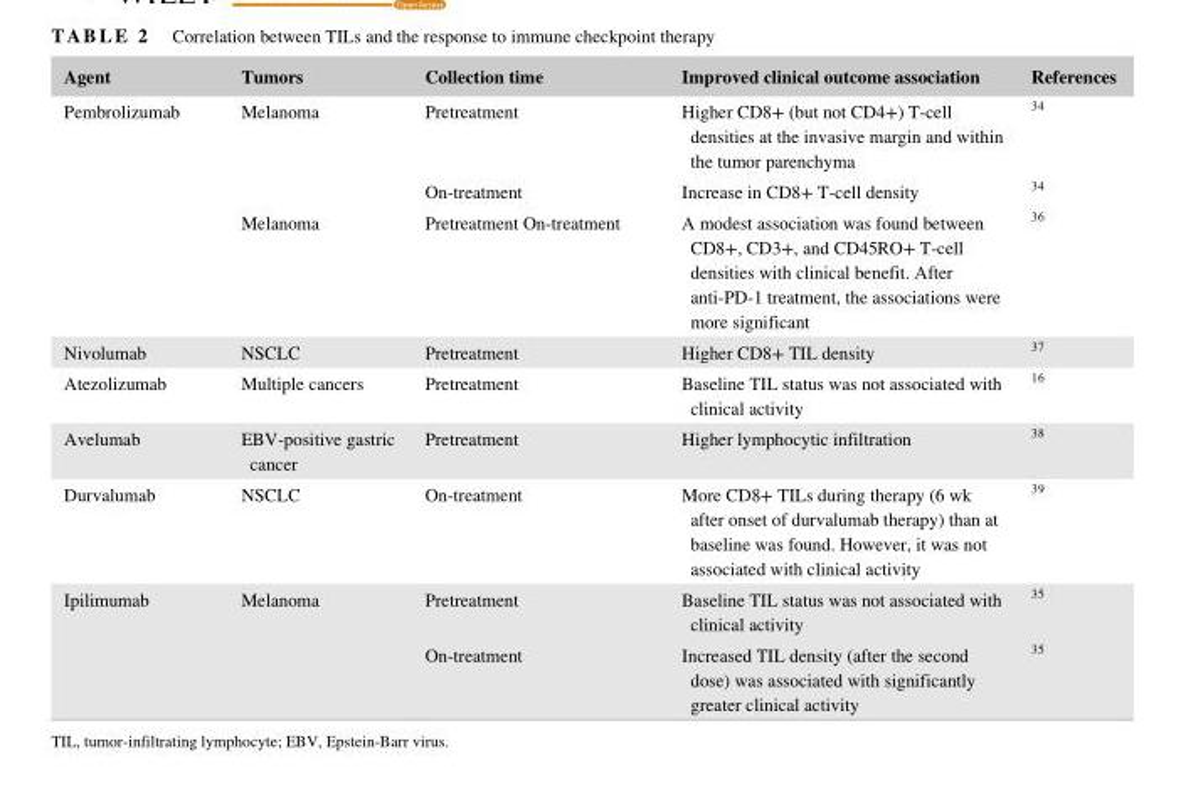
<table><thead><tr><td>Agent</td><td>Tumors</td><td>Collection time</td><td>Improved clinical outcome association</td><td>References</td></tr></thead><tbody><tr><td rowspan="3">Pembrolizumab</td><td rowspan="2">Melanoma</td><td>Pretreatment</td><td>Higher CD8+ (but not CD4+) T- cell densities at the invasive margin and within the tumor parenchyma</td><td>34</td></tr><tr><td>On- treatment</td><td>Increase in CD8+ T- cell density</td><td>34</td></tr><tr><td>Melanoma</td><td>Pretreatment On- treatment</td><td>A modest association was found between CD8+, CD3+, and CD45RO+ T- cell densities with clinical benefit. After anti- PD- 1 treatment, the associations were more significant</td><td>36</td></tr><tr><td>Nivolumab</td><td>NSCLC</td><td>Pretreatment</td><td>Higher CD8+ TIL density</td><td>37</td></tr><tr><td>Atezolizumab</td><td>Multiple cancers</td><td>Pretreatment</td><td>Baseline TIL status was not associated with clinical activity</td><td>16</td></tr><tr><td>Avelumab</td><td>EBV- positive gastric cancer</td><td>Pretreatment</td><td>Higher lymphocytic infiltration</td><td>38</td></tr><tr><td>Durvalumab</td><td>NSCLC</td><td>On- treatment</td><td>More CD8+ TILs during therapy (6 wk after onset of durvalumab therapy) than at baseline was found. However, it was not associated with clinical activity</td><td>39</td></tr><tr><td rowspan="2">Ipilimumab</td><td rowspan="2">Melanoma</td><td>Pretreatment</td><td>Baseline TIL status was not associated with clinical activity</td><td>35</td></tr><tr><td>On- treatment</td><td>Increased TIL density (after the second dose) was associated with significantly greater clinical activity</td><td>35</td></tr></tbody></table>